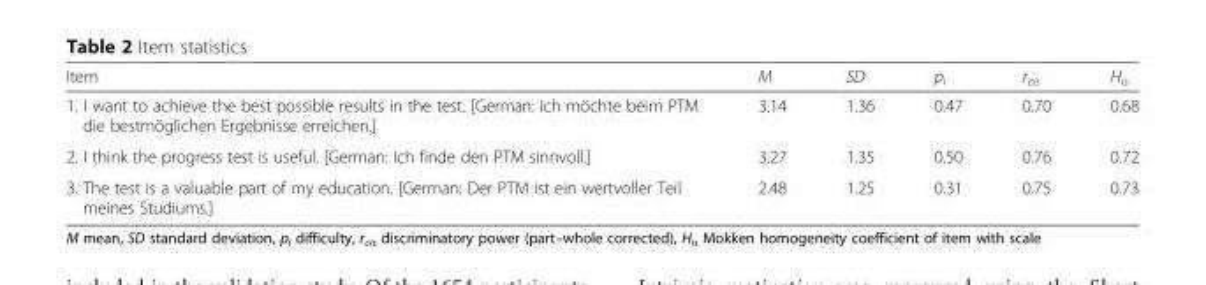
<table><thead><tr><td>Item</td><td>M</td><td>SD</td><td>p<sub>i</sub></td><td>r<sub>cis</sub></td><td>H<sub>is</sub></td></tr></thead><tbody><tr><td>1. I want to achieve the best possible results in the test. [German: Ich möchte beim PTM die bestmöglichen Ergebnisse erreichen.]</td><td>3.14</td><td>1.36</td><td>0.47</td><td>0.70</td><td>0.68</td></tr><tr><td>2. I think the progress test is useful. [German: Ich finde den PTM sinnvoll.]</td><td>3.27</td><td>1.35</td><td>0.50</td><td>0.76</td><td>0.72</td></tr><tr><td>3. The test is a valuable part of my education. [German: Der PTM ist ein wertvoller Teil meines Studiums.]</td><td>2.48</td><td>1.25</td><td>0.31</td><td>0.75</td><td>0.73</td></tr></tbody></table>